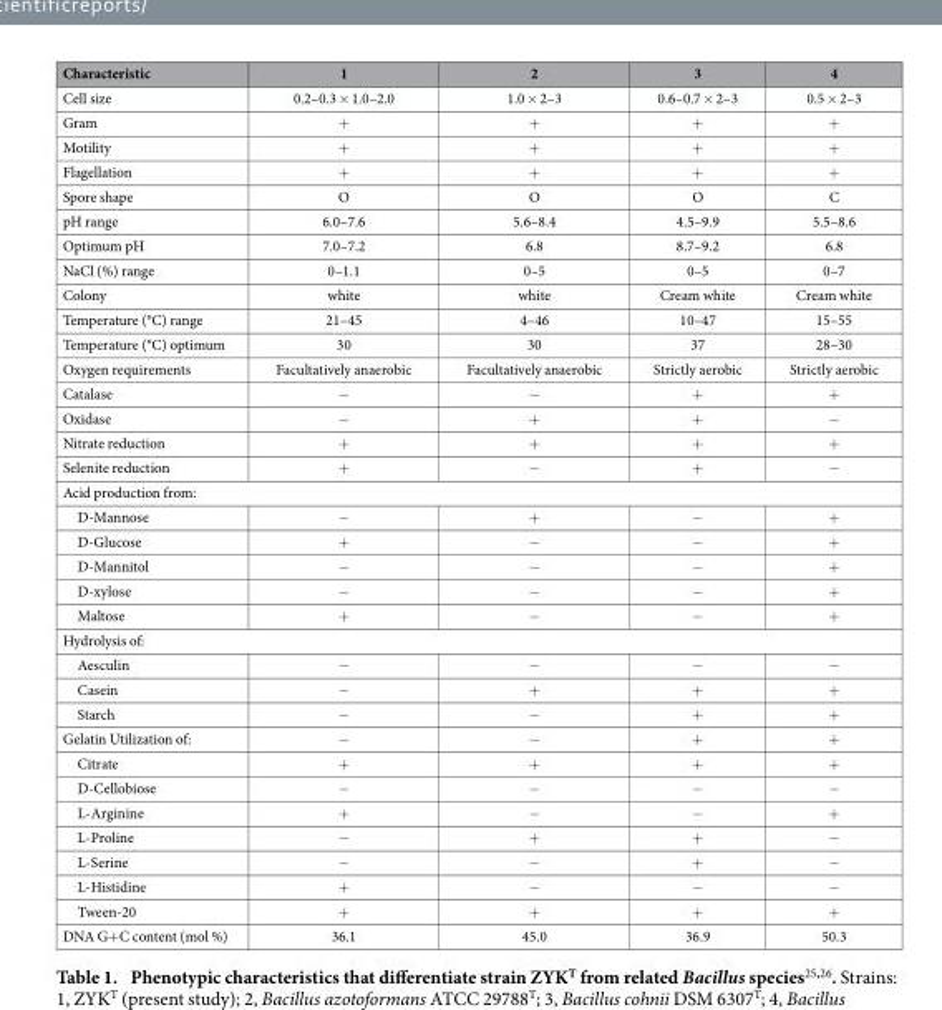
<table><thead><tr><td>Characteristic</td><td>1</td><td>2</td><td>3</td><td>4</td></tr></thead><tbody><tr><td>Cell size</td><td>0.2–0.3 × 1.0–2.0</td><td>1.0 × 2–3</td><td>0.6–0.7 × 2–3</td><td>0.5 × 2–3</td></tr><tr><td>Gram</td><td>+</td><td>+</td><td>+</td><td>+</td></tr><tr><td>Motility</td><td>+</td><td>+</td><td>+</td><td>+</td></tr><tr><td>Flagellation</td><td>+</td><td>+</td><td>+</td><td>+</td></tr><tr><td>Spore shape</td><td>O</td><td>O</td><td>O</td><td>C</td></tr><tr><td>pH range</td><td>6.0–7.6</td><td>5.6–8.4</td><td>4.5–9.9</td><td>5.5–8.6</td></tr><tr><td>Optimum pH</td><td>7.0–7.2</td><td>6.8</td><td>8.7–9.2</td><td>6.8</td></tr><tr><td>NaCl (%) range</td><td>0–1.1</td><td>0–5</td><td>0–5</td><td>0–7</td></tr><tr><td>Colony</td><td>white</td><td>white</td><td>Cream white</td><td>Cream white</td></tr><tr><td>Temperature (°C) range</td><td>21–45</td><td>4–46</td><td>10–47</td><td>15–55</td></tr><tr><td>Temperature (°C) optimum</td><td>30</td><td>30</td><td>37</td><td>28–30</td></tr><tr><td>Oxygen requirements</td><td>Facultatively anaerobic</td><td>Facultatively anaerobic</td><td>Strictly aerobic</td><td>Strictly aerobic</td></tr><tr><td>Catalase</td><td>−</td><td>−</td><td>+</td><td>+</td></tr><tr><td>Oxidase</td><td>−</td><td>+</td><td>+</td><td>−</td></tr><tr><td>Nitrate reduction</td><td>+</td><td>+</td><td>+</td><td>+</td></tr><tr><td>Selenite reduction</td><td>+</td><td>−</td><td>+</td><td>−</td></tr><tr><td colspan="5">Acid production from:</td></tr><tr><td>D-Mannose</td><td>−</td><td>+</td><td>−</td><td>+</td></tr><tr><td>D-Glucose</td><td>+</td><td>−</td><td>−</td><td>+</td></tr><tr><td>D-Mannitol</td><td>−</td><td>−</td><td>−</td><td>+</td></tr><tr><td>D-xylose</td><td>−</td><td>−</td><td>−</td><td>+</td></tr><tr><td>Maltose</td><td>+</td><td>−</td><td>−</td><td>+</td></tr><tr><td colspan="5">Hydrolysis of:</td></tr><tr><td>Aesculin</td><td>−</td><td>−</td><td>−</td><td>−</td></tr><tr><td>Casein</td><td>−</td><td>+</td><td>+</td><td>+</td></tr><tr><td>Starch</td><td>−</td><td>−</td><td>+</td><td>+</td></tr><tr><td>Gelatin Utilization of:</td><td>−</td><td>−</td><td>+</td><td>+</td></tr><tr><td>Citrate</td><td>+</td><td>+</td><td>+</td><td>+</td></tr><tr><td>D-Cellobiose</td><td>−</td><td>−</td><td>−</td><td>−</td></tr><tr><td>L-Arginine</td><td>+</td><td>−</td><td>−</td><td>+</td></tr><tr><td>L-Proline</td><td>−</td><td>+</td><td>+</td><td>−</td></tr><tr><td>L-Serine</td><td>−</td><td>−</td><td>+</td><td>−</td></tr><tr><td>L-Histidine</td><td>+</td><td>−</td><td>−</td><td>−</td></tr><tr><td>Tween-20</td><td>+</td><td>+</td><td>+</td><td>+</td></tr><tr><td>DNA G+ C content (mol %)</td><td>36.1</td><td>45.0</td><td>36.9</td><td>50.3</td></tr></tbody></table>